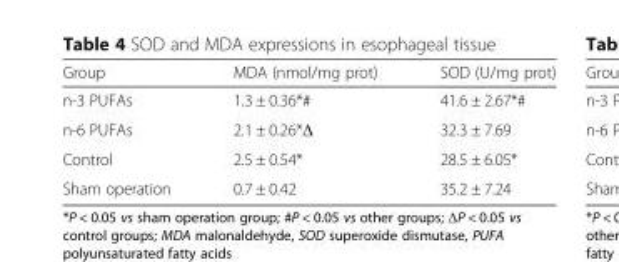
<table><thead><tr><td>Group</td><td>MDA (nmol/mg prot)</td><td>SOD (U/mg prot)</td></tr></thead><tbody><tr><td>n-3 PUFAs</td><td>1.3 ± 0.36*#</td><td>41.6 ± 2.67*#</td></tr><tr><td>n-6 PUFAs</td><td>2.1 ± 0.26*Δ</td><td>32.3 ± 7.69</td></tr><tr><td>Control</td><td>2.5 ± 0.54*</td><td>28.5 ± 6.05*</td></tr><tr><td>Sham operation</td><td>0.7 ± 0.42</td><td>35.2 ± 7.24</td></tr></tbody></table>